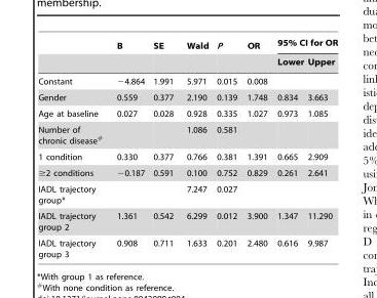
<table><thead><tr><td rowspan="2"></td><td rowspan="2">B</td><td rowspan="2">SE</td><td rowspan="2">Wald</td><td rowspan="2">P</td><td rowspan="2">OR</td><td colspan="2">95% CI for OR</td></tr><tr><td>Lower</td><td>Upper</td></tr></thead><tbody><tr><td>Constant</td><td>−4.864</td><td>1.991</td><td>5.971</td><td>0.015</td><td>0.008</td><td></td><td></td></tr><tr><td>Gender</td><td>0.559</td><td>0.377</td><td>2.190</td><td>0.139</td><td>1.748</td><td>0.834</td><td>3.663</td></tr><tr><td>Age at baseline</td><td>0.027</td><td>0.028</td><td>0.928</td><td>0.335</td><td>1.027</td><td>0.973</td><td>1.085</td></tr><tr><td>Number of chronic disease#</td><td></td><td></td><td>1.086</td><td>0.581</td><td></td><td></td><td></td></tr><tr><td>1 condition</td><td>0.330</td><td>0.377</td><td>0.766</td><td>0.381</td><td>1.391</td><td>0.665</td><td>2.909</td></tr><tr><td>≥2 conditions</td><td>−0.187</td><td>0.591</td><td>0.100</td><td>0.752</td><td>0.829</td><td>0.261</td><td>2.641</td></tr><tr><td>IADL trajectory group*</td><td></td><td></td><td>7.247</td><td>0.027</td><td></td><td></td><td></td></tr><tr><td>IADL trajectory group 2</td><td>1.361</td><td>0.542</td><td>6.299</td><td>0.012</td><td>3.900</td><td>1.347</td><td>11.290</td></tr><tr><td>IADL trajectory group 3</td><td>0.908</td><td>0.711</td><td>1.633</td><td>0.201</td><td>2.480</td><td>0.616</td><td>9.987</td></tr></tbody></table>